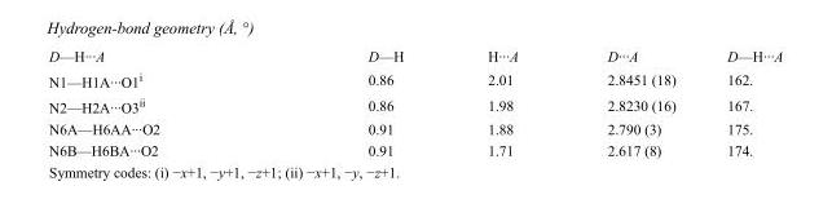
<table><tbody><tr><td>D—H···A</td><td>D—H</td><td>H···A</td><td>D···A</td><td>D—H···A</td></tr><tr><td>N1—H1A···O1<sup>i</sup></td><td>0.86</td><td>2.01</td><td>2.8451 (18)</td><td>162.</td></tr><tr><td>N2—H2A···O3<sup>ii</sup></td><td>0.86</td><td>1.98</td><td>2.8230 (16)</td><td>167.</td></tr><tr><td>N6A—H6AA···O2</td><td>0.91</td><td>1.88</td><td>2.790 (3)</td><td>175.</td></tr><tr><td>N6B—H6BA···O2</td><td>0.91</td><td>1.71</td><td>2.617 (8)</td><td>174.</td></tr></tbody></table>